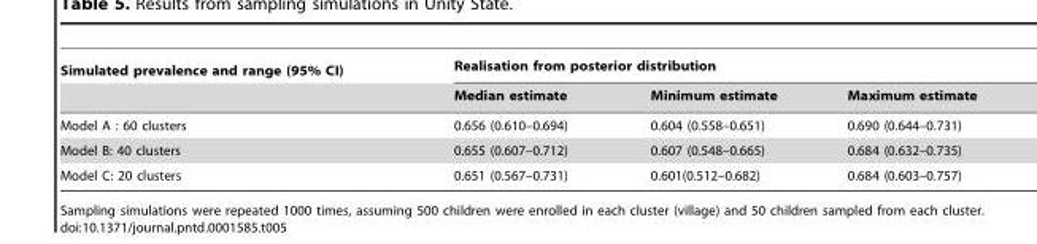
<table><thead><tr><td rowspan="2">Simulated prevalence and range (95% CI)</td><td colspan="3">Realisation from posterior distribution</td></tr><tr><td>Median estimate</td><td>Minimum estimate</td><td>Maximum estimate</td></tr></thead><tbody><tr><td>Model A : 60 clusters</td><td>0.656 (0.610–0.694)</td><td>0.604 (0.558–0.651)</td><td>0.690 (0.644–0.731)</td></tr><tr><td>Model B: 40 clusters</td><td>0.655 (0.607–0.712)</td><td>0.607 (0.548–0.665)</td><td>0.684 (0.632–0.735)</td></tr><tr><td>Model C: 20 clusters</td><td>0.651 (0.567–0.731)</td><td>0.601(0.512–0.682)</td><td>0.684 (0.603–0.757)</td></tr></tbody></table>